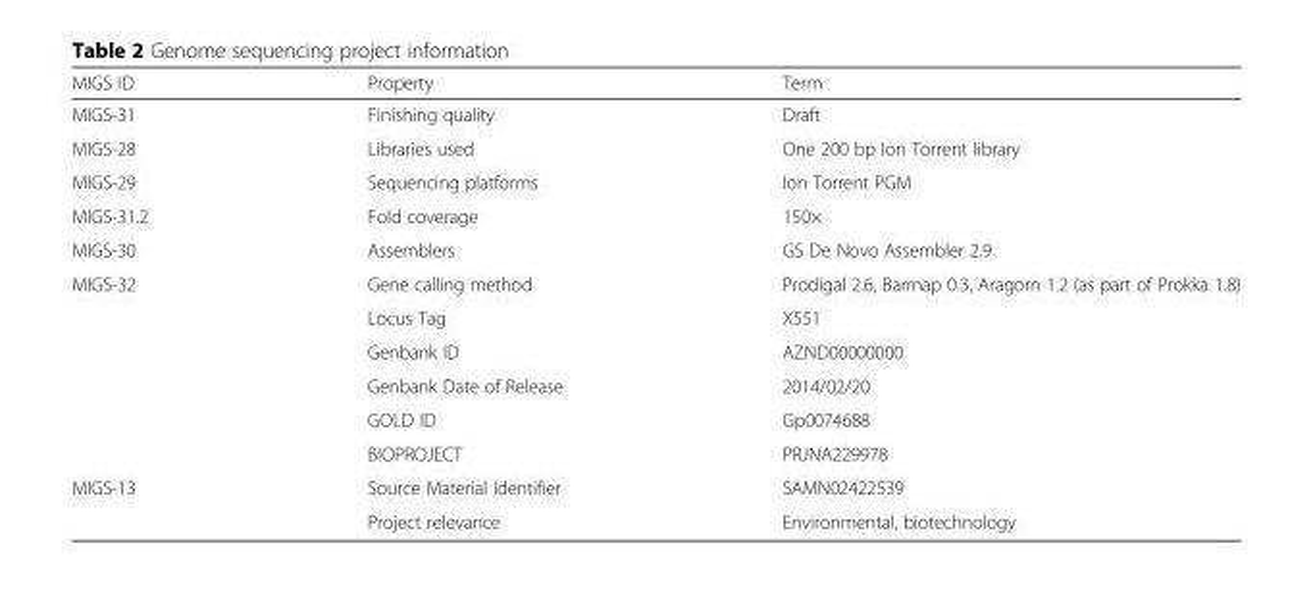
<table><thead><tr><td>MIGS ID</td><td>Property</td><td>Term</td></tr></thead><tbody><tr><td>MIGS-31</td><td>Finishing quality</td><td>Draft</td></tr><tr><td>MIGS-28</td><td>Libraries used</td><td>One 200 bp Ion Torrent library</td></tr><tr><td>MIGS-29</td><td>Sequencing platforms</td><td>Ion Torrent PGM</td></tr><tr><td>MIGS-31.2</td><td>Fold coverage</td><td>150×</td></tr><tr><td>MIGS-30</td><td>Assemblers</td><td>GS De Novo Assembler 2.9</td></tr><tr><td rowspan="6">MIGS-32</td><td>Gene calling method</td><td>Prodigal 2.6, Barrnap 0.3, Aragorn 1.2 (as part of Prokka 1.8)</td></tr><tr><td>Locus Tag</td><td>X551</td></tr><tr><td>Genbank ID</td><td>AZND00000000</td></tr><tr><td>Genbank Date of Release</td><td>2014/02/20</td></tr><tr><td>GOLD ID</td><td>Gp0074688</td></tr><tr><td>BIOPROJECT</td><td>PRJNA229978</td></tr><tr><td rowspan="2">MIGS-13</td><td>Source Material Identifier</td><td>SAMN02422539</td></tr><tr><td>Project relevance</td><td>Environmental, biotechnology</td></tr></tbody></table>